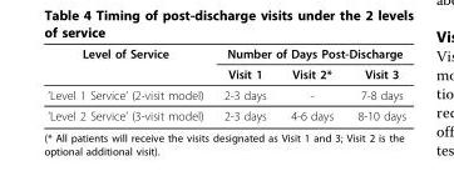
<table><thead><tr><td rowspan="2">Level of Service</td><td colspan="3">Number of Days Post-Discharge</td></tr><tr><td>Visit 1</td><td>Visit 2*</td><td>Visit 3</td></tr></thead><tbody><tr><td>’Level 1 Service’ (2-visit model)</td><td>2-3 days</td><td>-</td><td>7-8 days</td></tr><tr><td>’Level 2 Service’ (3-visit model)</td><td>2-3 days</td><td>4-6 days</td><td>8-10 days</td></tr></tbody></table>